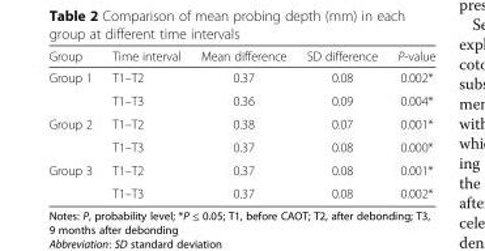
<table><thead><tr><td>Group</td><td>Time interval</td><td>Mean difference</td><td>SD difference</td><td>P-value</td></tr></thead><tbody><tr><td rowspan="2">Group 1</td><td>T1–T2</td><td>0.37</td><td>0.08</td><td>0.002*</td></tr><tr><td>T1–T3</td><td>0.36</td><td>0.09</td><td>0.004*</td></tr><tr><td rowspan="2">Group 2</td><td>T1–T2</td><td>0.38</td><td>0.07</td><td>0.001*</td></tr><tr><td>T1–T3</td><td>0.37</td><td>0.08</td><td>0.000*</td></tr><tr><td rowspan="2">Group 3</td><td>T1–T2</td><td>0.37</td><td>0.08</td><td>0.001*</td></tr><tr><td>T1–T3</td><td>0.37</td><td>0.08</td><td>0.002*</td></tr></tbody></table>